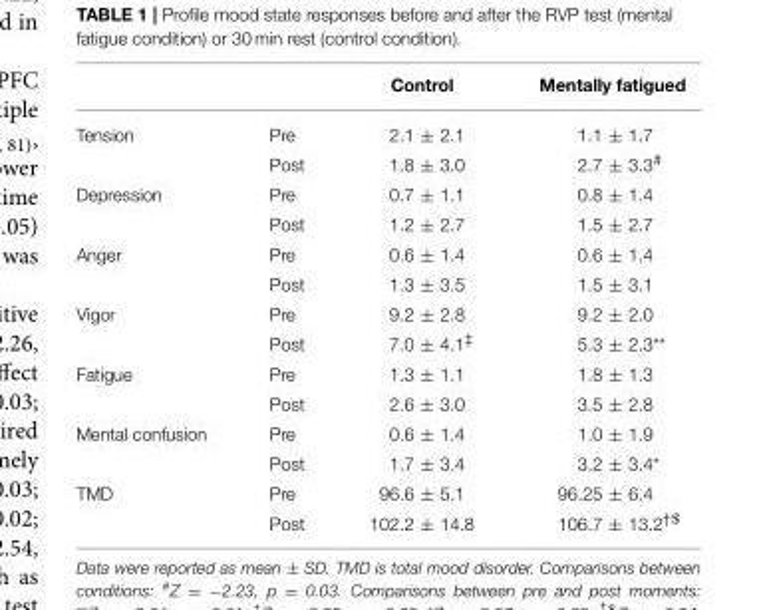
<table><thead><tr><td></td><td></td><td>Control</td><td>Mentally fatigued</td></tr></thead><tbody><tr><td rowspan="2">Tension</td><td>Pre</td><td>2.1 ± 2.1</td><td>1.1 ± 1.7</td></tr><tr><td>Post</td><td>1.8 ± 3.0</td><td>2.7 ± 3.3<sup>#</sup></td></tr><tr><td rowspan="2">Depression</td><td>Pre</td><td>0.7 ± 1.1</td><td>0.8 ± 1.4</td></tr><tr><td>Post</td><td>1.2 ± 2.7</td><td>1.5 ± 2.7</td></tr><tr><td rowspan="2">Anger</td><td>Pre</td><td>0.6 ± 1.4</td><td>0.6 ± 1.4</td></tr><tr><td>Post</td><td>1.3 ± 3.5</td><td>1.5 ± 3.1</td></tr><tr><td rowspan="2">Vigor</td><td>Pre</td><td>9.2 ± 2.8</td><td>9.2 ± 2.0</td></tr><tr><td>Post</td><td>7.0 ± 4.1<sup>‡</sup></td><td>5.3 ± 2.3**</td></tr><tr><td rowspan="2">Fatigue</td><td>Pre</td><td>1.3 ± 1.1</td><td>1.8 ± 1.3</td></tr><tr><td>Post</td><td>2.6 ± 3.0</td><td>3.5 ± 2.8</td></tr><tr><td rowspan="2">Mental confusion</td><td>Pre</td><td>0.6 ± 1.4</td><td>1.0 ± 1.9</td></tr><tr><td>Post</td><td>1.7 ± 3.4</td><td>3.2 ± 3.4*</td></tr><tr><td rowspan="2">TMD</td><td>Pre</td><td>96.6 ± 5.1</td><td>96.25 ± 6.4</td></tr><tr><td>Post</td><td>102.2 ± 14.8</td><td>106.7 ± 13.2<sup>†$</sup></td></tr></tbody></table>